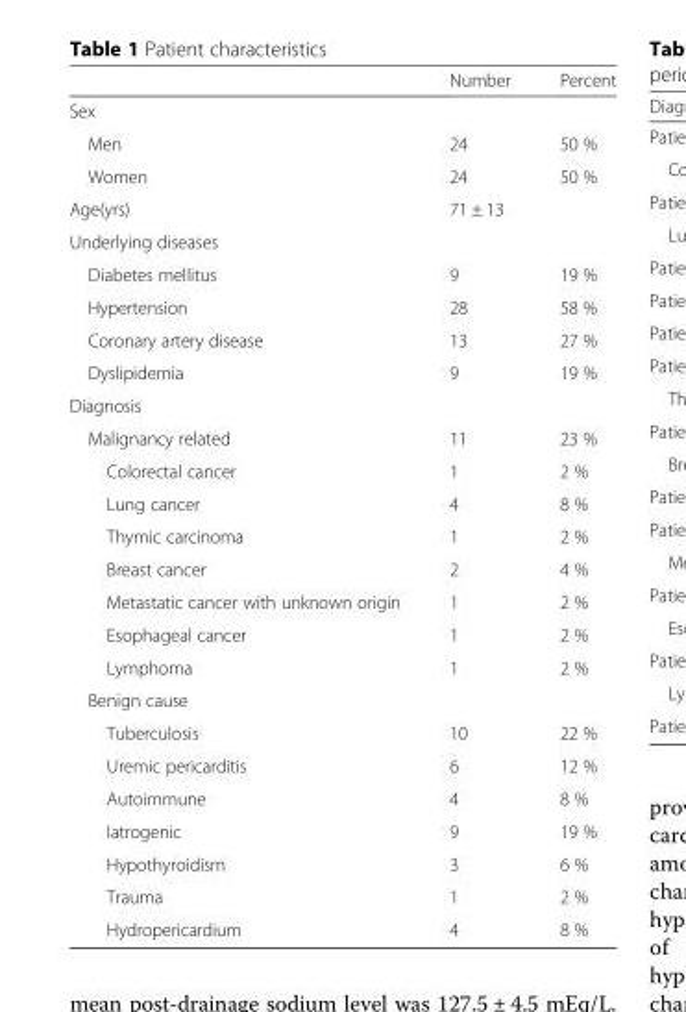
<table><thead><tr><td></td><td>Number</td><td>Percent</td></tr></thead><tbody><tr><td colspan="3">Sex</td></tr><tr><td>Men</td><td>24</td><td>50 %</td></tr><tr><td>Women</td><td>24</td><td>50 %</td></tr><tr><td>Age(yrs)</td><td>71 ± 13</td><td></td></tr><tr><td colspan="3">Underlying diseases</td></tr><tr><td>Diabetes mellitus</td><td>9</td><td>19 %</td></tr><tr><td>Hypertension</td><td>28</td><td>58 %</td></tr><tr><td>Coronary artery disease</td><td>13</td><td>27 %</td></tr><tr><td>Dyslipidemia</td><td>9</td><td>19 %</td></tr><tr><td colspan="3">Diagnosis</td></tr><tr><td>Malignancy related</td><td>11</td><td>23 %</td></tr><tr><td>Colorectal cancer</td><td>1</td><td>2 %</td></tr><tr><td>Lung cancer</td><td>4</td><td>8 %</td></tr><tr><td>Thymic carcinoma</td><td>1</td><td>2 %</td></tr><tr><td>Breast cancer</td><td>2</td><td>4 %</td></tr><tr><td>Metastatic cancer with unknown origin</td><td>1</td><td>2 %</td></tr><tr><td>Esophageal cancer</td><td>1</td><td>2 %</td></tr><tr><td>Lymphoma</td><td>1</td><td>2 %</td></tr><tr><td colspan="3">Benign cause</td></tr><tr><td>Tuberculosis</td><td>10</td><td>22 %</td></tr><tr><td>Uremic pericarditis</td><td>6</td><td>12 %</td></tr><tr><td>Autoimmune</td><td>4</td><td>8 %</td></tr><tr><td>Iatrogenic</td><td>9</td><td>19 %</td></tr><tr><td>Hypothyroidism</td><td>3</td><td>6 %</td></tr><tr><td>Trauma</td><td>1</td><td>2 %</td></tr><tr><td>Hydropericardium</td><td>4</td><td>8 %</td></tr></tbody></table>